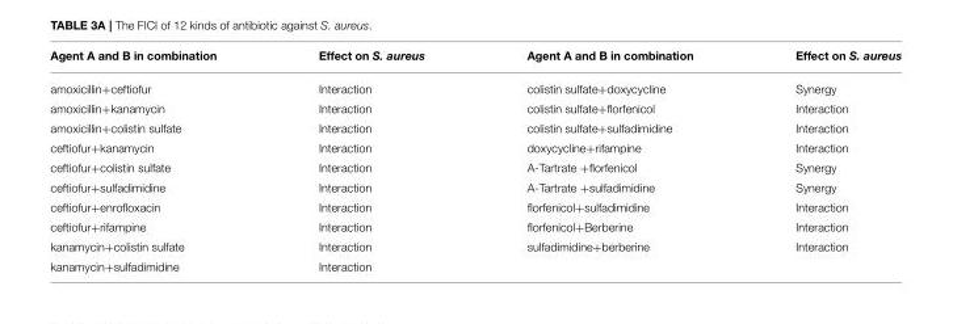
<table><thead><tr><td>Agent A and B in combination</td><td>Effect on S. aureus</td><td>Agent A and B in combination</td><td>Effect on S. aureus</td></tr></thead><tbody><tr><td>amoxicillin+ceftiofur</td><td>Interaction</td><td>colistin sulfate+doxycycline</td><td>Synergy</td></tr><tr><td>amoxicillin+kanamycin</td><td>Interaction</td><td>colistin sulfate+florfenicol</td><td>Interaction</td></tr><tr><td>amoxicillin+colistin sulfate</td><td>Interaction</td><td>colistin sulfate+sulfadimidine</td><td>Interaction</td></tr><tr><td>ceftiofur+kanamycin</td><td>Interaction</td><td>doxycycline+rifampine</td><td>Interaction</td></tr><tr><td>ceftiofur+colistin sulfate</td><td>Interaction</td><td>A-Tartrate +florfenicol</td><td>Synergy</td></tr><tr><td>ceftiofur+sulfadimidine</td><td>Interaction</td><td>A-Tartrate +sulfadimidine</td><td>Synergy</td></tr><tr><td>ceftiofur+enrofloxacin</td><td>Interaction</td><td>florfenicol+sulfadimidine</td><td>Interaction</td></tr><tr><td>ceftiofur+rifampine</td><td>Interaction</td><td>florfenicol+Berberine</td><td>Interaction</td></tr><tr><td>kanamycin+colistin sulfate</td><td>Interaction</td><td>sulfadimidine+berberine</td><td>Interaction</td></tr><tr><td>kanamycin+sulfadimidine</td><td>Interaction</td><td></td><td></td></tr></tbody></table>